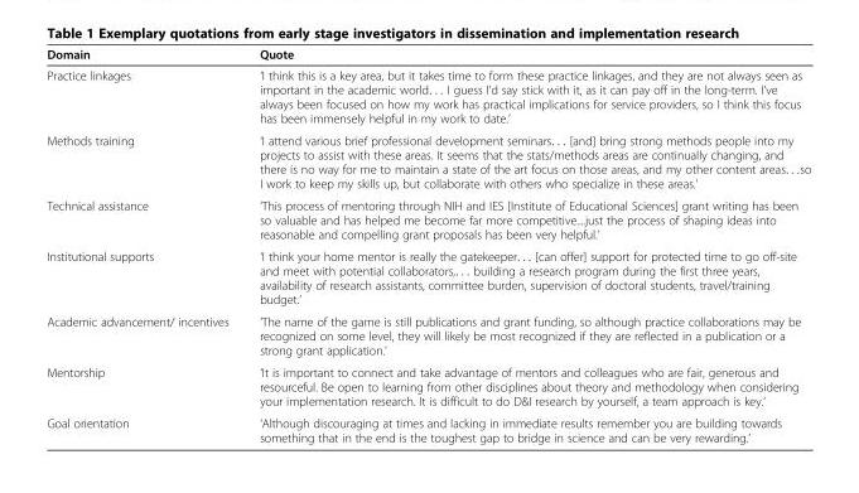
<table><thead><tr><td>Domain</td><td>Quote</td></tr></thead><tbody><tr><td>Practice linkages</td><td>‘I think this is a key area, but it takes time to form these practice linkages, and they are not always seen as important in the academic world. . . I guess I&#x27;d say stick with it, as it can pay off in the long-term. I&#x27;ve always been focused on how my work has practical implications for service providers, so I think this focus has been immensely helpful in my work to date.’</td></tr><tr><td>Methods training</td><td>‘I attend various brief professional development seminars. . . [and] bring strong methods people into my projects to assist with these areas. It seems that the stats/methods areas are continually changing, and there is no way for me to maintain a state of the art focus on those areas, and my other content areas. . .so I work to keep my skills up, but collaborate with others who specialize in these areas.’</td></tr><tr><td>Technical assistance</td><td>‘This process of mentoring through NIH and IES [Institute of Educational Sciences] grant writing has been so valuable and has helped me become far more competitive....just the process of shaping ideas into reasonable and compelling grant proposals has been very helpful.’</td></tr><tr><td>Institutional supports</td><td>‘I think your home mentor is really the gatekeeper. . . [can offer] support for protected time to go off-site and meet with potential collaborators,. . . building a research program during the first three years, availability of research assistants, committee burden, supervision of doctoral students, travel/training budget.’</td></tr><tr><td>Academic advancement/ incentives</td><td>‘The name of the game is still publications and grant funding, so although practice collaborations may be recognized on some level, they will likely be most recognized if they are reflected in a publication or a strong grant application.’</td></tr><tr><td>Mentorship</td><td>‘It is important to connect and take advantage of mentors and colleagues who are fair, generous and resourceful. Be open to learning from other disciplines about theory and methodology when considering your implementation research. It is difficult to do D&amp;I research by yourself, a team approach is key.’</td></tr><tr><td>Goal orientation</td><td>‘Although discouraging at times and lacking in immediate results remember you are building towards something that in the end is the toughest gap to bridge in science and can be very rewarding.’</td></tr></tbody></table>